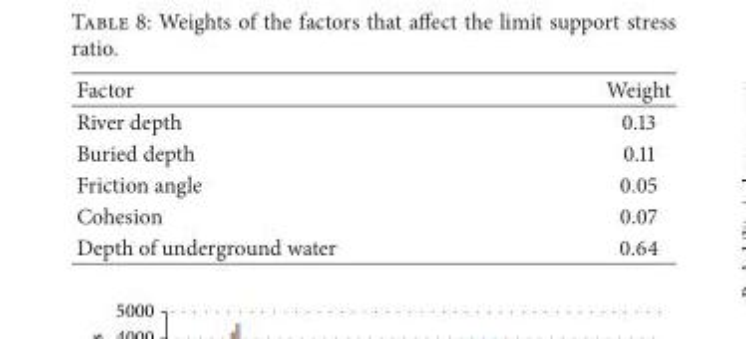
<table><thead><tr><td>Factor</td><td>Weight</td></tr></thead><tbody><tr><td>River depth</td><td>0.13</td></tr><tr><td>Buried depth</td><td>0.11</td></tr><tr><td>Friction angle</td><td>0.05</td></tr><tr><td>Cohesion</td><td>0.07</td></tr><tr><td>Depth of underground water</td><td>0.64</td></tr></tbody></table>